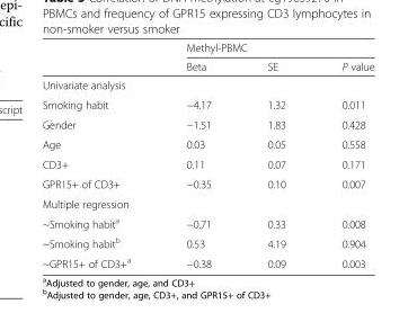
<table><thead><tr><td rowspan="2"></td><td colspan="3">Methyl-PBMC</td></tr><tr><td>Beta</td><td>SE</td><td>P value</td></tr></thead><tbody><tr><td colspan="4">Univariate analysis</td></tr><tr><td>Smoking habit</td><td>−4.17</td><td>1.32</td><td>0.011</td></tr><tr><td>Gender</td><td>−1.51</td><td>1.83</td><td>0.428</td></tr><tr><td>Age</td><td>0.03</td><td>0.05</td><td>0.558</td></tr><tr><td>CD3+</td><td>0.11</td><td>0.07</td><td>0.171</td></tr><tr><td>GPR15+ of CD3+</td><td>−0.35</td><td>0.10</td><td>0.007</td></tr><tr><td colspan="4">Multiple regression</td></tr><tr><td>~Smoking habit<sup>a</sup></td><td>−0.71</td><td>0.33</td><td>0.008</td></tr><tr><td>~Smoking habit<sup>b</sup></td><td>0.53</td><td>4.19</td><td>0.904</td></tr><tr><td>~GPR15+ of CD3+<sup>a</sup></td><td>−0.38</td><td>0.09</td><td>0.003</td></tr></tbody></table>